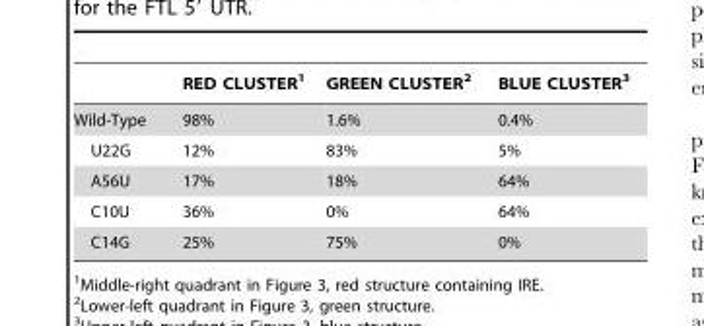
<table><thead><tr><td></td><td>RED CLUSTER<sup>1</sup></td><td>GREEN CLUSTER<sup>2</sup></td><td>BLUE CLUSTER<sup>3</sup></td></tr></thead><tbody><tr><td>Wild-Type</td><td>98%</td><td>1.6%</td><td>0.4%</td></tr><tr><td>U22G</td><td>12%</td><td>83%</td><td>5%</td></tr><tr><td>A56U</td><td>17%</td><td>18%</td><td>64%</td></tr><tr><td>C10U</td><td>36%</td><td>0%</td><td>64%</td></tr><tr><td>C14G</td><td>25%</td><td>75%</td><td>0%</td></tr></tbody></table>